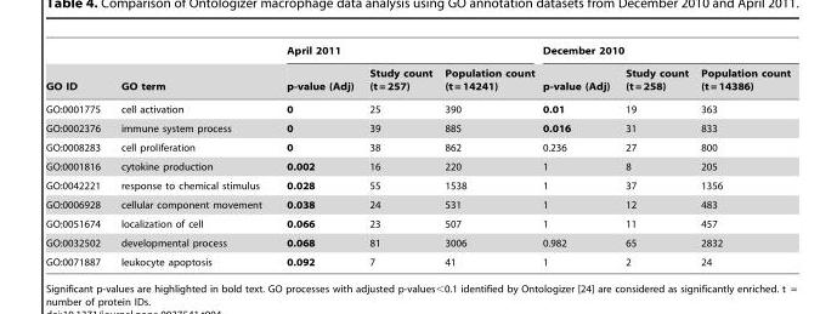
<table><thead><tr><td rowspan="2">GO ID</td><td rowspan="2">GO term</td><td colspan="3">April 2011</td><td colspan="3">December 2010</td></tr><tr><td>p-value (Adj)</td><td>Study count (t = 257)</td><td>Population count (t = 14241)</td><td>p-value (Adj)</td><td>Study count (t = 258)</td><td>Population count (t = 14386)</td></tr></thead><tbody><tr><td>GO:0001775</td><td>cell activation</td><td>0</td><td>25</td><td>390</td><td>0.01</td><td>19</td><td>363</td></tr><tr><td>GO:0002376</td><td>immune system process</td><td>0</td><td>39</td><td>885</td><td>0.016</td><td>31</td><td>833</td></tr><tr><td>GO:0008283</td><td>cell proliferation</td><td>0</td><td>38</td><td>862</td><td>0.236</td><td>27</td><td>800</td></tr><tr><td>GO:0001816</td><td>cytokine production</td><td>0.002</td><td>16</td><td>220</td><td>1</td><td>8</td><td>205</td></tr><tr><td>GO:0042221</td><td>response to chemical stimulus</td><td>0.028</td><td>55</td><td>1538</td><td>1</td><td>37</td><td>1356</td></tr><tr><td>GO:0006928</td><td>cellular component movement</td><td>0.038</td><td>24</td><td>531</td><td>1</td><td>12</td><td>483</td></tr><tr><td>GO:0051674</td><td>localization of cell</td><td>0.066</td><td>23</td><td>507</td><td>1</td><td>11</td><td>457</td></tr><tr><td>GO:0032502</td><td>developmental process</td><td>0.068</td><td>81</td><td>3006</td><td>0.982</td><td>65</td><td>2832</td></tr><tr><td>GO:0071887</td><td>leukocyte apoptosis</td><td>0.092</td><td>7</td><td>41</td><td>1</td><td>2</td><td>24</td></tr></tbody></table>